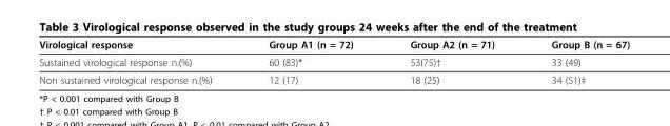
<table><thead><tr><td>Virological response</td><td>Group A1 (n = 72)</td><td>Group A2 (n = 71)</td><td>Group B (n = 67)</td></tr></thead><tbody><tr><td>Sustained virological response n.(%)</td><td>60 (83)*</td><td>53(75)†</td><td>33 (49)</td></tr><tr><td>Non sustained virological response n.(%)</td><td>12 (17)</td><td>18 (25)</td><td>34 (51)‡</td></tr></tbody></table>